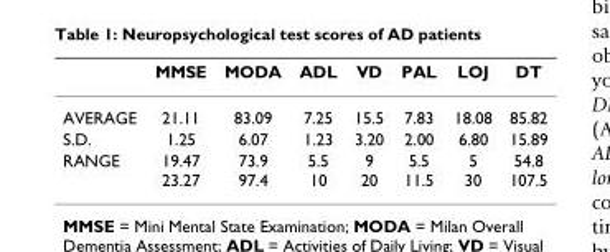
<table><thead><tr><td></td><td>MMSE</td><td>MODA</td><td>ADL</td><td>VD</td><td>PAL</td><td>LOJ</td><td>DT</td></tr></thead><tbody><tr><td>AVERAGE</td><td>21.11</td><td>83.09</td><td>7.25</td><td>15.5</td><td>7.83</td><td>18.08</td><td>85.82</td></tr><tr><td>S.D.</td><td>1.25</td><td>6.07</td><td>1.23</td><td>3.20</td><td>2.00</td><td>6.80</td><td>15.89</td></tr><tr><td>RANGE</td><td>19.47 23.27</td><td>73.9 97.4</td><td>5.5 10</td><td>9 20</td><td>5.5 11.5</td><td>5 30</td><td>54.8 107.5</td></tr></tbody></table>